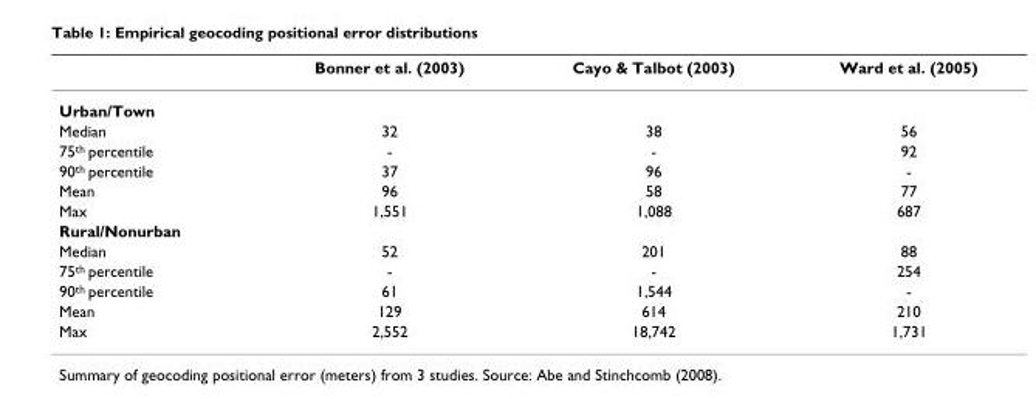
<table><thead><tr><td></td><td>Bonner et al. (2003)</td><td>Cayo &amp; Talbot (2003)</td><td>Ward et al. (2005)</td></tr></thead><tbody><tr><td colspan="4">Urban/Town</td></tr><tr><td>Median</td><td>32</td><td>38</td><td>56</td></tr><tr><td>75<sup>th</sup> percentile</td><td>-</td><td>-</td><td>92</td></tr><tr><td>90<sup>th</sup> percentile</td><td>37</td><td>96</td><td>-</td></tr><tr><td>Mean</td><td>96</td><td>58</td><td>77</td></tr><tr><td>Max</td><td>1,551</td><td>1,088</td><td>687</td></tr><tr><td colspan="4">Rural/Nonurban</td></tr><tr><td>Median</td><td>52</td><td>201</td><td>88</td></tr><tr><td>75<sup>th</sup> percentile</td><td>-</td><td>-</td><td>254</td></tr><tr><td>90<sup>th</sup> percentile</td><td>61</td><td>1,544</td><td>-</td></tr><tr><td>Mean</td><td>129</td><td>614</td><td>210</td></tr><tr><td>Max</td><td>2,552</td><td>18,742</td><td>1,731</td></tr></tbody></table>